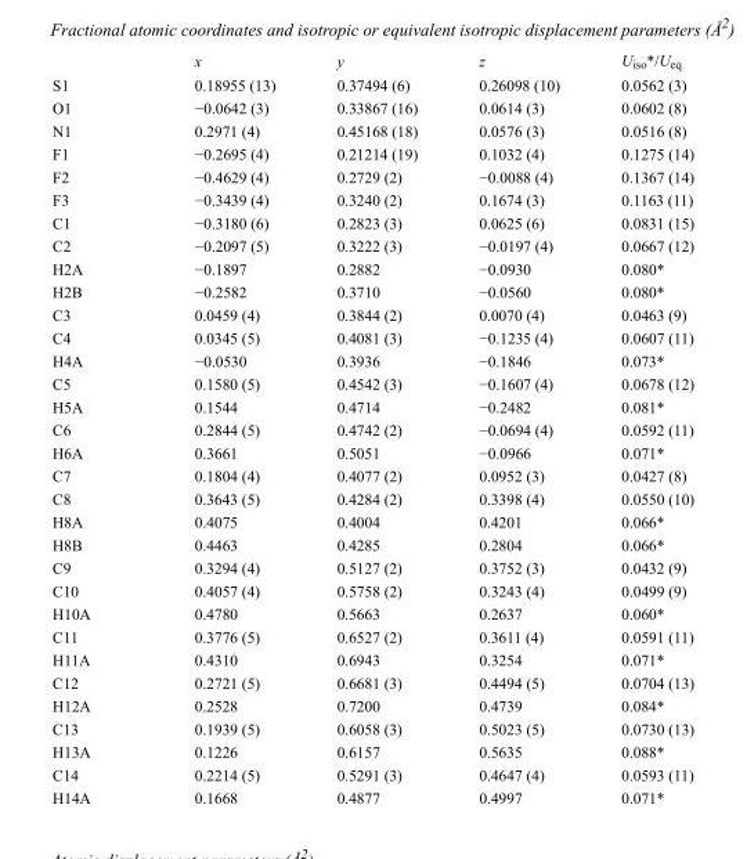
<table><thead><tr><td></td><td>x</td><td>y</td><td>z</td><td>U<sub>iso</sub>*/U<sub>eq</sub></td></tr></thead><tbody><tr><td>S1</td><td>0.18955 (13)</td><td>0.37494 (6)</td><td>0.26098 (10)</td><td>0.0562 (3)</td></tr><tr><td>O1</td><td>−0.0642 (3)</td><td>0.33867 (16)</td><td>0.0614 (3)</td><td>0.0602 (8)</td></tr><tr><td>N1</td><td>0.2971 (4)</td><td>0.45168 (18)</td><td>0.0576 (3)</td><td>0.0516 (8)</td></tr><tr><td>F1</td><td>−0.2695 (4)</td><td>0.21214 (19)</td><td>0.1032 (4)</td><td>0.1275 (14)</td></tr><tr><td>F2</td><td>−0.4629 (4)</td><td>0.2729 (2)</td><td>−0.0088 (4)</td><td>0.1367 (14)</td></tr><tr><td>F3</td><td>−0.3439 (4)</td><td>0.3240 (2)</td><td>0.1674 (3)</td><td>0.1163 (11)</td></tr><tr><td>C1</td><td>−0.3180 (6)</td><td>0.2823 (3)</td><td>0.0625 (6)</td><td>0.0831 (15)</td></tr><tr><td>C2</td><td>−0.2097 (5)</td><td>0.3222 (3)</td><td>−0.0197 (4)</td><td>0.0667 (12)</td></tr><tr><td>H2A</td><td>−0.1897</td><td>0.2882</td><td>−0.0930</td><td>0.080*</td></tr><tr><td>H2B</td><td>−0.2582</td><td>0.3710</td><td>−0.0560</td><td>0.080*</td></tr><tr><td>C3</td><td>0.0459 (4)</td><td>0.3844 (2)</td><td>0.0070 (4)</td><td>0.0463 (9)</td></tr><tr><td>C4</td><td>0.0345 (5)</td><td>0.4081 (3)</td><td>−0.1235 (4)</td><td>0.0607 (11)</td></tr><tr><td>H4A</td><td>−0.0530</td><td>0.3936</td><td>−0.1846</td><td>0.073*</td></tr><tr><td>C5</td><td>0.1580 (5)</td><td>0.4542 (3)</td><td>−0.1607 (4)</td><td>0.0678 (12)</td></tr><tr><td>H5A</td><td>0.1544</td><td>0.4714</td><td>−0.2482</td><td>0.081*</td></tr><tr><td>C6</td><td>0.2844 (5)</td><td>0.4742 (2)</td><td>−0.0694 (4)</td><td>0.0592 (11)</td></tr><tr><td>H6A</td><td>0.3661</td><td>0.5051</td><td>−0.0966</td><td>0.071*</td></tr><tr><td>C7</td><td>0.1804 (4)</td><td>0.4077 (2)</td><td>0.0952 (3)</td><td>0.0427 (8)</td></tr><tr><td>C8</td><td>0.3643 (5)</td><td>0.4284 (2)</td><td>0.3398 (4)</td><td>0.0550 (10)</td></tr><tr><td>H8A</td><td>0.4075</td><td>0.4004</td><td>0.4201</td><td>0.066*</td></tr><tr><td>H8B</td><td>0.4463</td><td>0.4285</td><td>0.2804</td><td>0.066*</td></tr><tr><td>C9</td><td>0.3294 (4)</td><td>0.5127 (2)</td><td>0.3752 (3)</td><td>0.0432 (9)</td></tr><tr><td>C10</td><td>0.4057 (4)</td><td>0.5758 (2)</td><td>0.3243 (4)</td><td>0.0499 (9)</td></tr><tr><td>H10A</td><td>0.4780</td><td>0.5663</td><td>0.2637</td><td>0.060*</td></tr><tr><td>C11</td><td>0.3776 (5)</td><td>0.6527 (2)</td><td>0.3611 (4)</td><td>0.0591 (11)</td></tr><tr><td>H11A</td><td>0.4310</td><td>0.6943</td><td>0.3254</td><td>0.071*</td></tr><tr><td>C12</td><td>0.2721 (5)</td><td>0.6681 (3)</td><td>0.4494 (5)</td><td>0.0704 (13)</td></tr><tr><td>H12A</td><td>0.2528</td><td>0.7200</td><td>0.4739</td><td>0.084*</td></tr><tr><td>C13</td><td>0.1939 (5)</td><td>0.6058 (3)</td><td>0.5023 (5)</td><td>0.0730 (13)</td></tr><tr><td>H13A</td><td>0.1226</td><td>0.6157</td><td>0.5635</td><td>0.088*</td></tr><tr><td>C14</td><td>0.2214 (5)</td><td>0.5291 (3)</td><td>0.4647 (4)</td><td>0.0593 (11)</td></tr><tr><td>H14A</td><td>0.1668</td><td>0.4877</td><td>0.4997</td><td>0.071*</td></tr></tbody></table>